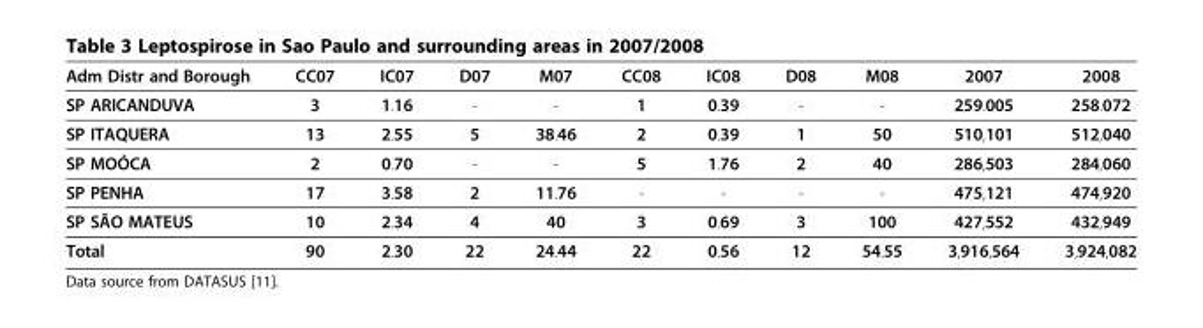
<table><thead><tr><td>Adm Distr and Borough</td><td>CC07</td><td>IC07</td><td>D07</td><td>M07</td><td>CC08</td><td>IC08</td><td>D08</td><td>M08</td><td>2007</td><td>2008</td></tr></thead><tbody><tr><td>SP ARICANDUVA</td><td>3</td><td>1.16</td><td>-</td><td>-</td><td>1</td><td>0.39</td><td>-</td><td>-</td><td>259.005</td><td>258.072</td></tr><tr><td>SP ITAQUERA</td><td>13</td><td>2.55</td><td>5</td><td>38.46</td><td>2</td><td>0.39</td><td>1</td><td>50</td><td>510,101</td><td>512,040</td></tr><tr><td>SP MOÓCA</td><td>2</td><td>0.70</td><td>-</td><td>-</td><td>5</td><td>1.76</td><td>2</td><td>40</td><td>286,503</td><td>284,060</td></tr><tr><td>SP PENHA</td><td>17</td><td>3.58</td><td>2</td><td>11.76</td><td>-</td><td>-</td><td>-</td><td>-</td><td>475,121</td><td>474,920</td></tr><tr><td>SP SÃO MATEUS</td><td>10</td><td>2.34</td><td>4</td><td>40</td><td>3</td><td>0.69</td><td>3</td><td>100</td><td>427,552</td><td>432,949</td></tr><tr><td>Total</td><td>90</td><td>2.30</td><td>22</td><td>24.44</td><td>22</td><td>0.56</td><td>12</td><td>54.55</td><td>3,916,564</td><td>3,924,082</td></tr></tbody></table>